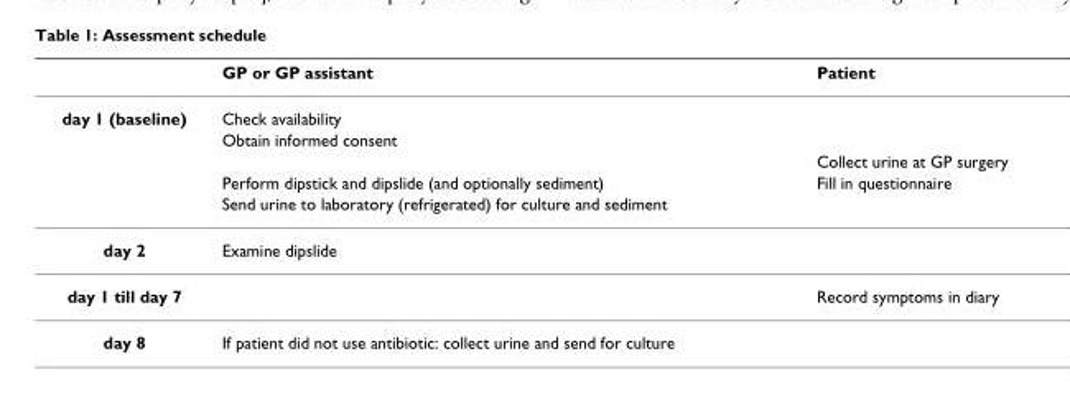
<table><thead><tr><td></td><td>GP or GP assistant</td><td>Patient</td></tr></thead><tbody><tr><td rowspan="5">day 1 (baseline)</td><td>Check availability</td><td></td></tr><tr><td>Obtain informed consent</td><td></td></tr><tr><td></td><td>Collect urine at GP surgery</td></tr><tr><td>Perform dipstick and dipslide (and optionally sediment)</td><td>Fill in questionnaire</td></tr><tr><td>Send urine to laboratory (refrigerated) for culture and sediment</td><td></td></tr><tr><td>day 2</td><td>Examine dipslide</td><td></td></tr><tr><td>day 1 till day 7</td><td></td><td>Record symptoms in diary</td></tr><tr><td>day 8</td><td>If patient did not use antibiotic: collect urine and send for culture</td><td></td></tr></tbody></table>